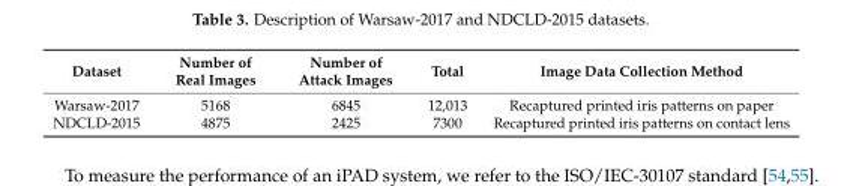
<table><thead><tr><td>Dataset</td><td>Number of Real Images</td><td>Number of Attack Images</td><td>Total</td><td>Image Data Collection Method</td></tr></thead><tbody><tr><td>Warsaw-2017</td><td>5168</td><td>6845</td><td>12,013</td><td>Recaptured printed iris patterns on paper</td></tr><tr><td>NDCLD-2015</td><td>4875</td><td>2425</td><td>7300</td><td>Recaptured printed iris patterns on contact lens</td></tr></tbody></table>